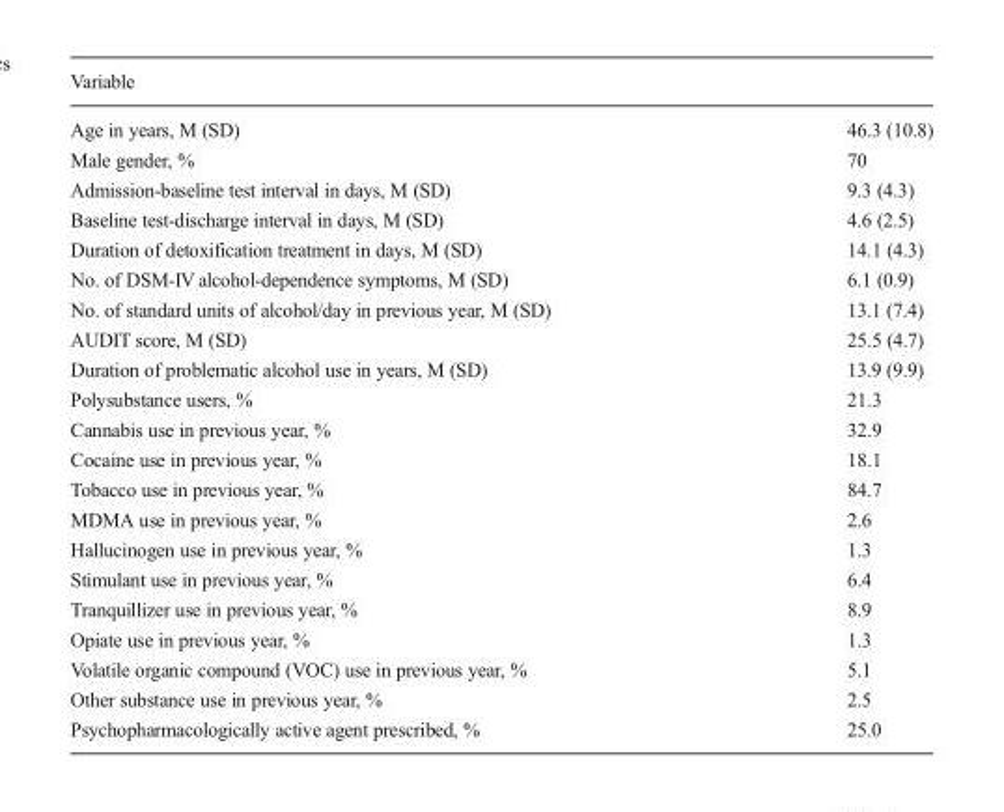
<table><thead><tr><td colspan="2">Variable</td></tr><tr><td>Age in years, M (SD)</td><td>46.3 (10.8)</td></tr></thead><tbody><tr><td>Male gender, %</td><td>70</td></tr><tr><td>Admission-baseline test interval in days, M (SD)</td><td>9.3 (4.3)</td></tr><tr><td>Baseline test-discharge interval in days, M (SD)</td><td>4.6 (2.5)</td></tr><tr><td>Duration of detoxification treatment in days, M (SD)</td><td>14.1 (4.3)</td></tr><tr><td>No. of DSM-IV alcohol-dependence symptoms, M (SD)</td><td>6.1 (0.9)</td></tr><tr><td>No. of standard units of alcohol/day in previous year, M (SD)</td><td>13.1 (7.4)</td></tr><tr><td>AUDIT score, M (SD)</td><td>25.5 (4.7)</td></tr><tr><td>Duration of problematic alcohol use in years, M (SD)</td><td>13.9 (9.9)</td></tr><tr><td>Polysubstance users, %</td><td>21.3</td></tr><tr><td>Cannabis use in previous year, %</td><td>32.9</td></tr><tr><td>Cocaine use in previous year, %</td><td>18.1</td></tr><tr><td>Tobacco use in previous year, %</td><td>84.7</td></tr><tr><td>MDMA use in previous year, %</td><td>2.6</td></tr><tr><td>Hallucinogen use in previous year, %</td><td>1.3</td></tr><tr><td>Stimulant use in previous year, %</td><td>6.4</td></tr><tr><td>Tranquillizer use in previous year, %</td><td>8.9</td></tr><tr><td>Opiate use in previous year, %</td><td>1.3</td></tr><tr><td>Volatile organic compound (VOC) use in previous year, %</td><td>5.1</td></tr><tr><td>Other substance use in previous year, %</td><td>2.5</td></tr><tr><td>Psychopharmacologically active agent prescribed, %</td><td>25.0</td></tr></tbody></table>